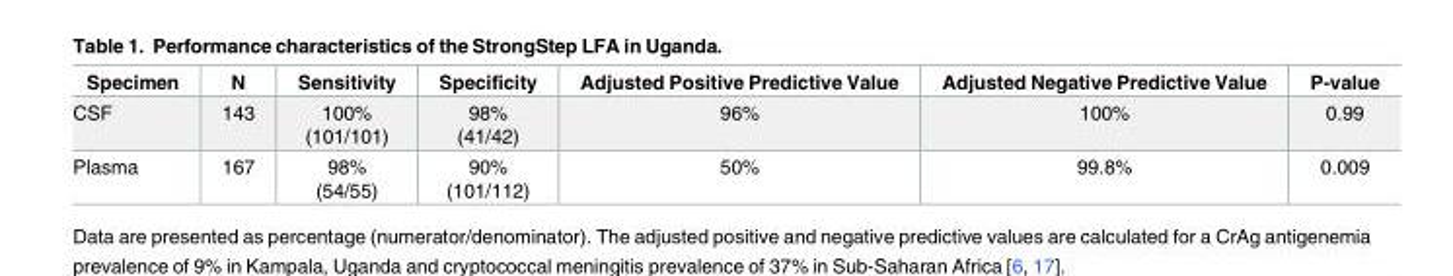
<table><thead><tr><td>Specimen</td><td>N</td><td>Sensitivity</td><td>Specificity</td><td>Adjusted Positive Predictive Value</td><td>Adjusted Negative Predictive Value</td><td>P-value</td></tr></thead><tbody><tr><td>CSF</td><td>143</td><td>100% (101/101)</td><td>98% (41/42)</td><td>96%</td><td>100%</td><td>0.99</td></tr><tr><td>Plasma</td><td>167</td><td>98% (54/55)</td><td>90% (101/112)</td><td>50%</td><td>99.8%</td><td>0.009</td></tr></tbody></table>